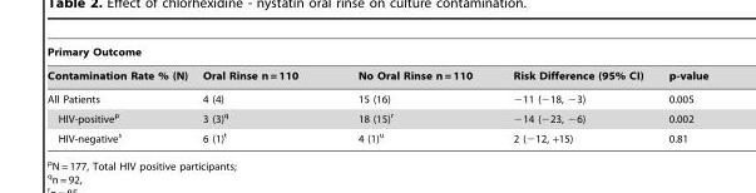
<table><thead><tr><td colspan="5">Primary Outcome</td></tr><tr><td>Contamination Rate % (N)</td><td>Oral Rinse n = 110</td><td>No Oral Rinse n = 110</td><td>Risk Difference (95% CI)</td><td>p-value</td></tr></thead><tbody><tr><td>All Patients</td><td>4 (4)</td><td>15 (16)</td><td>−11 (−18, −3)</td><td>0.005</td></tr><tr><td>HIV-positive<sup>p</sup></td><td>3 (3)<sup>q</sup></td><td>18 (15)<sup>r</sup></td><td>−14 (−23, −6)</td><td>0.002</td></tr><tr><td>HIV-negative<sup>s</sup></td><td>6 (1)<sup>t</sup></td><td>4 (1)<sup>u</sup></td><td>2 (−12, +15)</td><td>0.81</td></tr></tbody></table>